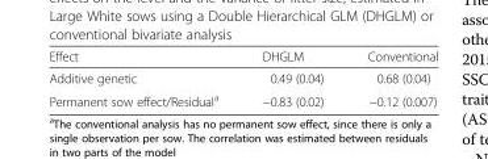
<table><thead><tr><td>Effect</td><td>DHGLM</td><td>Conventional</td></tr></thead><tbody><tr><td>Additive genetic</td><td>0.49 (0.04)</td><td>0.68 (0.04)</td></tr><tr><td>Permanent sow effect/Residual<sup>a</sup></td><td>−0.83 (0.02)</td><td>−0.12 (0.007)</td></tr></tbody></table>